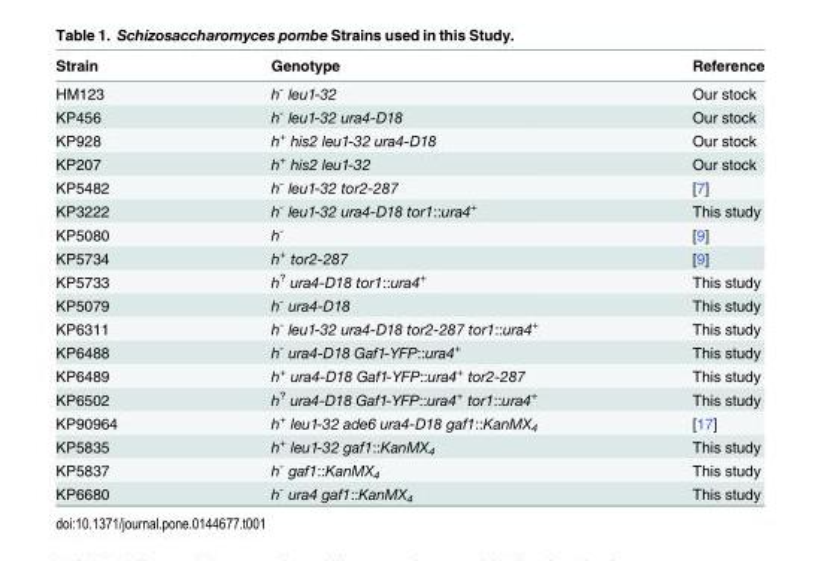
<table><thead><tr><td>Strain</td><td>Genotype</td><td>Reference</td></tr></thead><tbody><tr><td>HM123</td><td>h<sup>-</sup> leu1-32</td><td>Our stock</td></tr><tr><td>KP456</td><td>h<sup>-</sup> leu1-32 ura4-D18</td><td>Our stock</td></tr><tr><td>KP928</td><td>h<sup>+</sup> his2 leu1-32 ura4-D18</td><td>Our stock</td></tr><tr><td>KP207</td><td>h<sup>+</sup> his2 leu1-32</td><td>Our stock</td></tr><tr><td>KP5482</td><td>h<sup>-</sup> leu1-32 tor2-287</td><td>[7]</td></tr><tr><td>KP3222</td><td>h<sup>-</sup> leu1-32 ura4-D18 tor1::ura4<sup>+</sup></td><td>This study</td></tr><tr><td>KP5080</td><td>h<sup>-</sup></td><td>[9]</td></tr><tr><td>KP5734</td><td>h<sup>+</sup> tor2-287</td><td>[9]</td></tr><tr><td>KP5733</td><td>h<sup>?</sup> ura4-D18 tor1::ura4<sup>+</sup></td><td>This study</td></tr><tr><td>KP5079</td><td>h<sup>-</sup> ura4-D18</td><td>This study</td></tr><tr><td>KP6311</td><td>h<sup>-</sup> leu1-32 ura4-D18 tor2-287 tor1::ura4<sup>+</sup></td><td>This study</td></tr><tr><td>KP6488</td><td>h<sup>-</sup> ura4-D18 Gaf1-YFP::ura4<sup>+</sup></td><td>This study</td></tr><tr><td>KP6489</td><td>h<sup>+</sup> ura4-D18 Gaf1-YFP::ura4<sup>+</sup> tor2-287</td><td>This study</td></tr><tr><td>KP6502</td><td>h<sup>?</sup> ura4-D18 Gaf1-YFP::ura4<sup>+</sup> tor1::ura4<sup>+</sup></td><td>This study</td></tr><tr><td>KP90964</td><td>h<sup>+</sup> leu1-32 ade6 ura4-D18 gaf1::KanMX<sub>4</sub></td><td>[17]</td></tr><tr><td>KP5835</td><td>h<sup>+</sup> leu1-32 gaf1::KanMX<sub>4</sub></td><td>This study</td></tr><tr><td>KP5837</td><td>h<sup>-</sup> gaf1::KanMX<sub>4</sub></td><td>This study</td></tr><tr><td>KP6680</td><td>h<sup>-</sup> ura4 gaf1::KanMX<sub>4</sub></td><td>This study</td></tr></tbody></table>